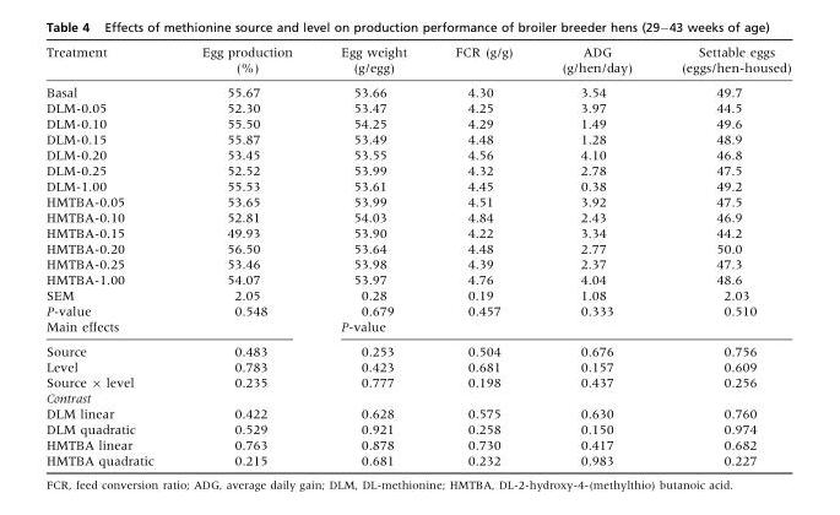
<table><thead><tr><td>Treatment</td><td>Egg production (%)</td><td>Egg weight (g/egg)</td><td>FCR (g/g)</td><td>ADG (g/hen/day)</td><td>Settable eggs (eggs/hen-housed)</td></tr></thead><tbody><tr><td>Basal</td><td>55.67</td><td>53.66</td><td>4.30</td><td>3.54</td><td>49.7</td></tr><tr><td>DLM-0.05</td><td>52.30</td><td>53.47</td><td>4.25</td><td>3.97</td><td>44.5</td></tr><tr><td>DLM-0.10</td><td>55.50</td><td>54.25</td><td>4.29</td><td>1.49</td><td>49.6</td></tr><tr><td>DLM-0.15</td><td>55.87</td><td>53.49</td><td>4.48</td><td>1.28</td><td>48.9</td></tr><tr><td>DLM-0.20</td><td>53.45</td><td>53.55</td><td>4.56</td><td>4.10</td><td>46.8</td></tr><tr><td>DLM-0.25</td><td>52.52</td><td>53.99</td><td>4.32</td><td>2.78</td><td>47.5</td></tr><tr><td>DLM-1.00</td><td>55.53</td><td>53.61</td><td>4.45</td><td>0.38</td><td>49.2</td></tr><tr><td>HMTBA-0.05</td><td>53.65</td><td>53.99</td><td>4.51</td><td>3.92</td><td>47.5</td></tr><tr><td>HMTBA-0.10</td><td>52.81</td><td>54.03</td><td>4.84</td><td>2.43</td><td>46.9</td></tr><tr><td>HMTBA-0.15</td><td>49.93</td><td>53.90</td><td>4.22</td><td>3.34</td><td>44.2</td></tr><tr><td>HMTBA-0.20</td><td>56.50</td><td>53.64</td><td>4.48</td><td>2.77</td><td>50.0</td></tr><tr><td>HMTBA-0.25</td><td>53.46</td><td>53.98</td><td>4.39</td><td>2.37</td><td>47.3</td></tr><tr><td>HMTBA-1.00</td><td>54.07</td><td>53.97</td><td>4.76</td><td>4.04</td><td>48.6</td></tr><tr><td>SEM</td><td>2.05</td><td>0.28</td><td>0.19</td><td>1.08</td><td>2.03</td></tr><tr><td>P-value</td><td>0.548</td><td>0.679</td><td>0.457</td><td>0.333</td><td>0.510</td></tr><tr><td colspan="2">Main effects</td><td colspan="4">P-value</td></tr><tr><td>Source</td><td>0.483</td><td>0.253</td><td>0.504</td><td>0.676</td><td>0.756</td></tr><tr><td>Level</td><td>0.783</td><td>0.423</td><td>0.681</td><td>0.157</td><td>0.609</td></tr><tr><td>Source × level</td><td>0.235</td><td>0.777</td><td>0.198</td><td>0.437</td><td>0.256</td></tr><tr><td colspan="6">Contrast</td></tr><tr><td>DLM linear</td><td>0.422</td><td>0.628</td><td>0.575</td><td>0.630</td><td>0.760</td></tr><tr><td>DLM quadratic</td><td>0.529</td><td>0.921</td><td>0.258</td><td>0.150</td><td>0.974</td></tr><tr><td>HMTBA linear</td><td>0.763</td><td>0.878</td><td>0.730</td><td>0.417</td><td>0.682</td></tr><tr><td>HMTBA quadratic</td><td>0.215</td><td>0.681</td><td>0.232</td><td>0.983</td><td>0.227</td></tr></tbody></table>